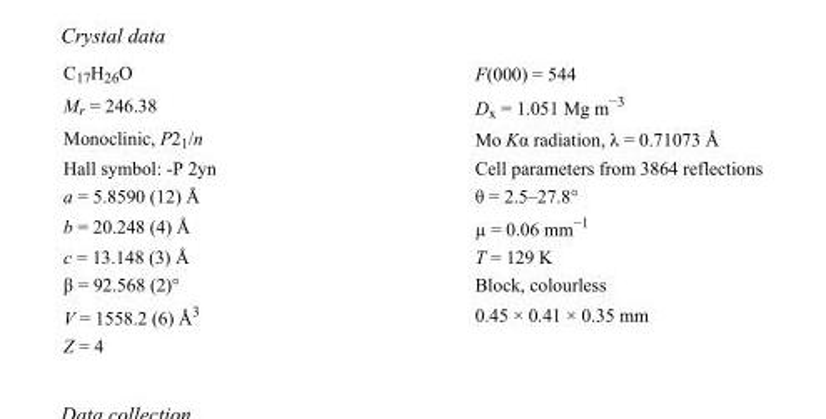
<table><tbody><tr><td>C<sub>17</sub>H<sub>26</sub>O</td><td>F(000) = 544</td></tr><tr><td>M<sub>r</sub> = 246.38</td><td>D<sub>x</sub> = 1.051 Mg m<sup>−3</sup></td></tr><tr><td>Monoclinic, P2<sub>1</sub>/n</td><td>Mo Kα radiation, λ = 0.71073 Å</td></tr><tr><td>Hall symbol: -P 2yn</td><td>Cell parameters from 3864 reflections</td></tr><tr><td>a = 5.8590 (12) Å</td><td>θ = 2.5–27.8°</td></tr><tr><td>b = 20.248 (4) Å</td><td>µ = 0.06 mm<sup>−1</sup></td></tr><tr><td>c = 13.148 (3) Å</td><td>T = 129 K</td></tr><tr><td>β = 92.568 (2)°</td><td>Block, colourless</td></tr><tr><td>V = 1558.2 (6) Å<sup>3</sup></td><td>0.45 × 0.41 × 0.35 mm</td></tr><tr><td>Z = 4</td><td></td></tr></tbody></table>